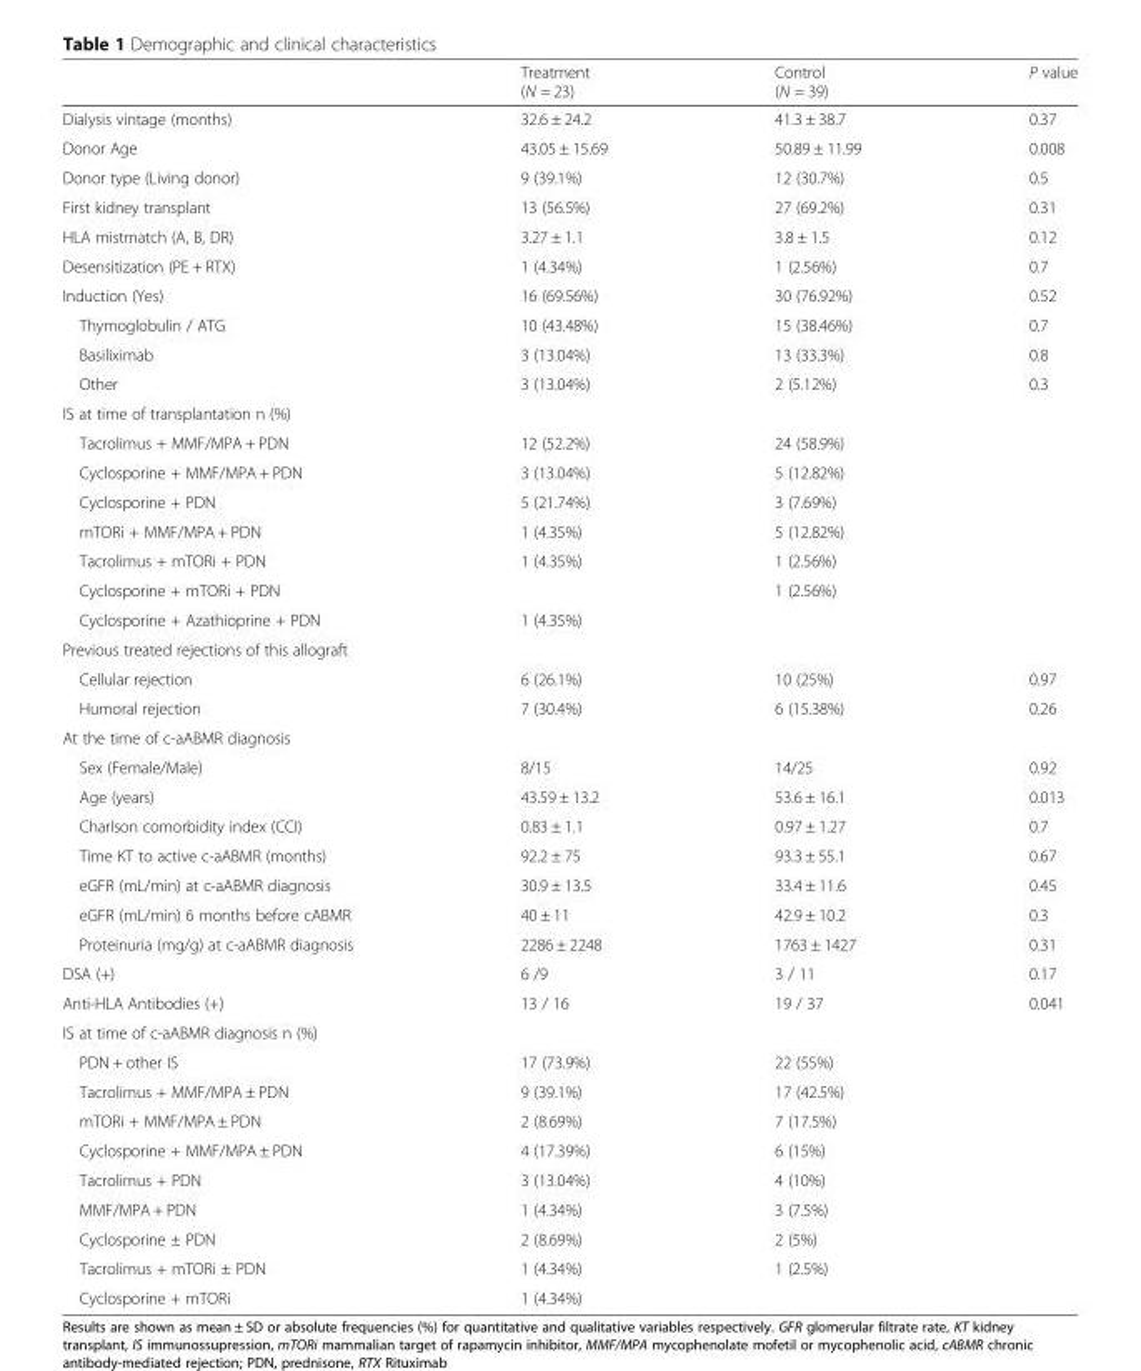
<table><thead><tr><td></td><td>Treatment (N = 23)</td><td>Control (N = 39)</td><td>P value</td></tr></thead><tbody><tr><td>Dialysis vintage (months)</td><td>32.6 ± 24.2</td><td>41.3 ± 38.7</td><td>0.37</td></tr><tr><td>Donor Age</td><td>43.05 ± 15.69</td><td>50.89 ± 11.99</td><td>0.008</td></tr><tr><td>Donor type (Living donor)</td><td>9 (39.1%)</td><td>12 (30.7%)</td><td>0.5</td></tr><tr><td>First kidney transplant</td><td>13 (56.5%)</td><td>27 (69.2%)</td><td>0.31</td></tr><tr><td>HLA mistmatch (A, B, DR)</td><td>3.27 ± 1.1</td><td>3.8 ± 1.5</td><td>0.12</td></tr><tr><td>Desensitization (PE + RTX)</td><td>1 (4.34%)</td><td>1 (2.56%)</td><td>0.7</td></tr><tr><td>Induction (Yes)</td><td>16 (69.56%)</td><td>30 (76.92%)</td><td>0.52</td></tr><tr><td>Thymoglobulin / ATG</td><td>10 (43.48%)</td><td>15 (38.46%)</td><td>0.7</td></tr><tr><td>Basiliximab</td><td>3 (13.04%)</td><td>13 (33.3%)</td><td>0.8</td></tr><tr><td>Other</td><td>3 (13.04%)</td><td>2 (5.12%)</td><td>0.3</td></tr><tr><td colspan="4">IS at time of transplantation n (%)</td></tr><tr><td>Tacrolimus + MMF/MPA + PDN</td><td>12 (52.2%)</td><td>24 (58.9%)</td><td></td></tr><tr><td>Cyclosporine + MMF/MPA + PDN</td><td>3 (13.04%)</td><td>5 (12.82%)</td><td></td></tr><tr><td>Cyclosporine + PDN</td><td>5 (21.74%)</td><td>3 (7.69%)</td><td></td></tr><tr><td>mTORi + MMF/MPA + PDN</td><td>1 (4.35%)</td><td>5 (12.82%)</td><td></td></tr><tr><td>Tacrolimus + mTORi + PDN</td><td>1 (4.35%)</td><td>1 (2.56%)</td><td></td></tr><tr><td>Cyclosporine + mTORi + PDN</td><td></td><td>1 (2.56%)</td><td></td></tr><tr><td>Cyclosporine + Azathioprine + PDN</td><td>1 (4.35%)</td><td></td><td></td></tr><tr><td colspan="4">Previous treated rejections of this allograft</td></tr><tr><td>Cellular rejection</td><td>6 (26.1%)</td><td>10 (25%)</td><td>0.97</td></tr><tr><td>Humoral rejection</td><td>7 (30.4%)</td><td>6 (15.38%)</td><td>0.26</td></tr><tr><td colspan="4">At the time of c-aABMR diagnosis</td></tr><tr><td>Sex (Female/Male)</td><td>8/15</td><td>14/25</td><td>0.92</td></tr><tr><td>Age (years)</td><td>43.59 ± 13.2</td><td>53.6 ± 16.1</td><td>0.013</td></tr><tr><td>Charlson comorbidity index (CCI)</td><td>0.83 ± 1.1</td><td>0.97 ± 1.27</td><td>0.7</td></tr><tr><td>Time KT to active c-aABMR (months)</td><td>92.2 ± 75</td><td>93.3 ± 55.1</td><td>0.67</td></tr><tr><td>eGFR (mL/min) at c-aABMR diagnosis</td><td>30.9 ± 13.5</td><td>33.4 ± 11.6</td><td>0.45</td></tr><tr><td>eGFR (mL/min) 6 months before cABMR</td><td>40 ± 11</td><td>42.9 ± 10.2</td><td>0.3</td></tr><tr><td>Proteinuria (mg/g) at c-aABMR diagnosis</td><td>2286 ± 2248</td><td>1763 ± 1427</td><td>0.31</td></tr><tr><td>DSA (+)</td><td>6 /9</td><td>3 / 11</td><td>0.17</td></tr><tr><td>Anti-HLA Antibodies (+)</td><td>13 / 16</td><td>19 / 37</td><td>0.041</td></tr><tr><td colspan="4">IS at time of c-aABMR diagnosis n (%)</td></tr><tr><td>PDN + other IS</td><td>17 (73.9%)</td><td>22 (55%)</td><td></td></tr><tr><td>Tacrolimus + MMF/MPA ± PDN</td><td>9 (39.1%)</td><td>17 (42.5%)</td><td></td></tr><tr><td>mTORi + MMF/MPA ± PDN</td><td>2 (8.69%)</td><td>7 (17.5%)</td><td></td></tr><tr><td>Cyclosporine + MMF/MPA ± PDN</td><td>4 (17.39%)</td><td>6 (15%)</td><td></td></tr><tr><td>Tacrolimus + PDN</td><td>3 (13.04%)</td><td>4 (10%)</td><td></td></tr><tr><td>MMF/MPA + PDN</td><td>1 (4.34%)</td><td>3 (7.5%)</td><td></td></tr><tr><td>Cyclosporine ± PDN</td><td>2 (8.69%)</td><td>2 (5%)</td><td></td></tr><tr><td>Tacrolimus + mTORi ± PDN</td><td>1 (4.34%)</td><td>1 (2.5%)</td><td></td></tr><tr><td>Cyclosporine + mTORi</td><td>1 (4.34%)</td><td></td><td></td></tr></tbody></table>